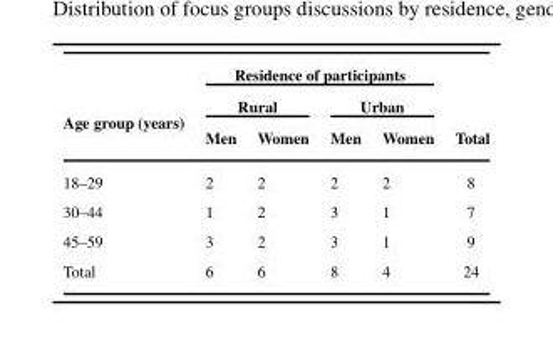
<table><thead><tr><td rowspan="3">Age group (years)</td><td colspan="4">Residence of participants</td><td rowspan="3">Total</td></tr><tr><td colspan="2">Rural</td><td colspan="2">Urban</td></tr><tr><td>Men</td><td>Women</td><td>Men</td><td>Women</td></tr></thead><tbody><tr><td>18–29</td><td>2</td><td>2</td><td>2</td><td>2</td><td>8</td></tr><tr><td>30–44</td><td>1</td><td>2</td><td>3</td><td>1</td><td>7</td></tr><tr><td>45–59</td><td>3</td><td>2</td><td>3</td><td>1</td><td>9</td></tr><tr><td>Total</td><td>6</td><td>6</td><td>8</td><td>4</td><td>24</td></tr></tbody></table>